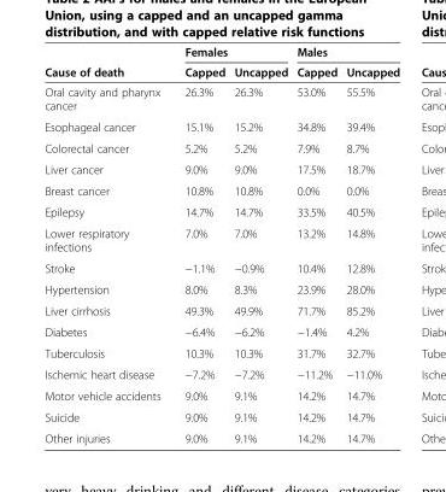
<table><thead><tr><td rowspan="2">Cause of death</td><td colspan="2">Females</td><td colspan="2">Males</td></tr><tr><td>Capped</td><td>Uncapped</td><td>Capped</td><td>Uncapped</td></tr></thead><tbody><tr><td>Oral cavity and pharynx cancer</td><td>26.3%</td><td>26.3%</td><td>53.0%</td><td>55.5%</td></tr><tr><td>Esophageal cancer</td><td>15.1%</td><td>15.2%</td><td>34.8%</td><td>39.4%</td></tr><tr><td>Colorectal cancer</td><td>5.2%</td><td>5.2%</td><td>7.9%</td><td>8.7%</td></tr><tr><td>Liver cancer</td><td>9.0%</td><td>9.0%</td><td>17.5%</td><td>18.7%</td></tr><tr><td>Breast cancer</td><td>10.8%</td><td>10.8%</td><td>0.0%</td><td>0.0%</td></tr><tr><td>Epilepsy</td><td>14.7%</td><td>14.7%</td><td>33.5%</td><td>40.5%</td></tr><tr><td>Lower respiratory infections</td><td>7.0%</td><td>7.0%</td><td>13.2%</td><td>14.8%</td></tr><tr><td>Stroke</td><td>−1.1%</td><td>−0.9%</td><td>10.4%</td><td>12.8%</td></tr><tr><td>Hypertension</td><td>8.0%</td><td>8.3%</td><td>23.9%</td><td>28.0%</td></tr><tr><td>Liver cirrhosis</td><td>49.3%</td><td>49.9%</td><td>71.7%</td><td>85.2%</td></tr><tr><td>Diabetes</td><td>−6.4%</td><td>−6.2%</td><td>−1.4%</td><td>4.2%</td></tr><tr><td>Tuberculosis</td><td>10.3%</td><td>10.3%</td><td>31.7%</td><td>32.7%</td></tr><tr><td>Ischemic heart disease</td><td>−7.2%</td><td>−7.2%</td><td>−11.2%</td><td>−11.0%</td></tr><tr><td>Motor vehicle accidents</td><td>9.0%</td><td>9.1%</td><td>14.2%</td><td>14.7%</td></tr><tr><td>Suicide</td><td>9.0%</td><td>9.1%</td><td>14.2%</td><td>14.7%</td></tr><tr><td>Other injuries</td><td>9.0%</td><td>9.1%</td><td>14.2%</td><td>14.7%</td></tr></tbody></table>